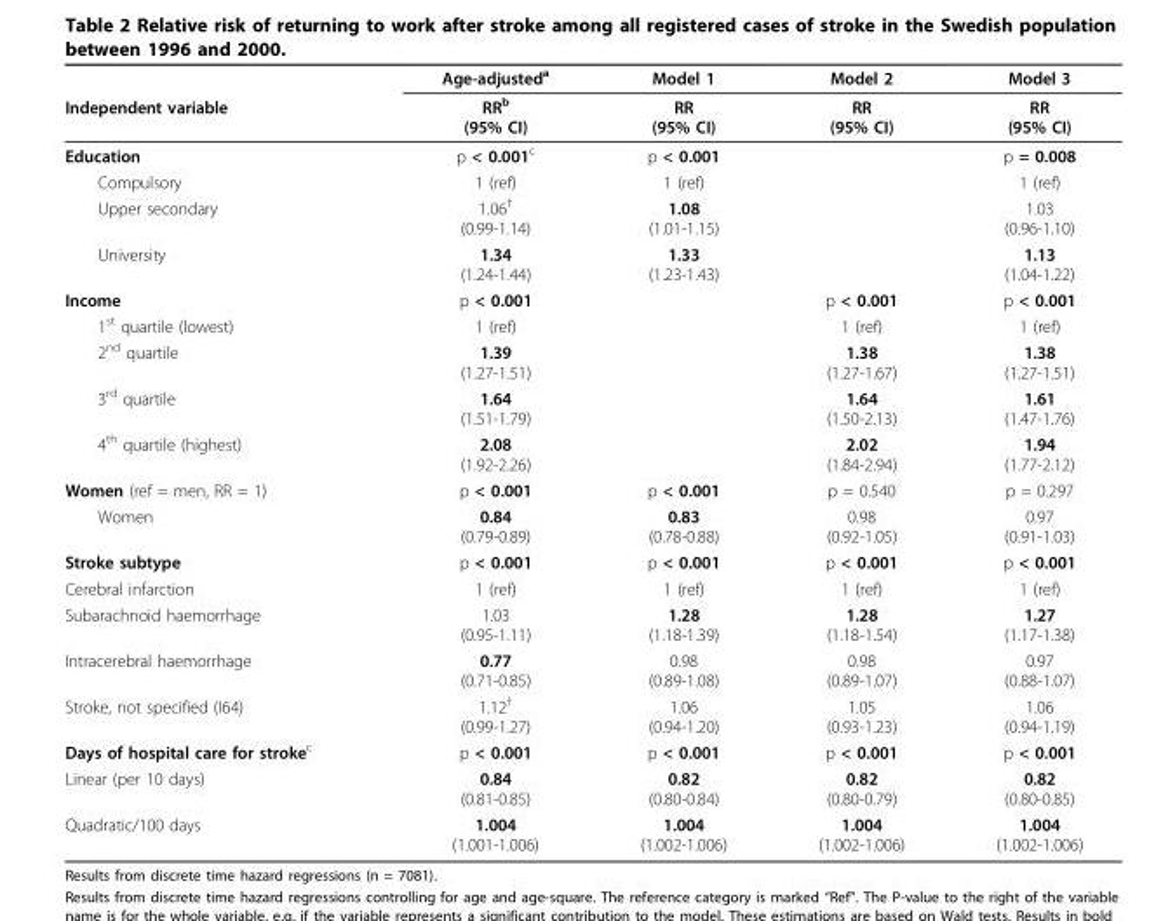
<table><thead><tr><td rowspan="2">Independent variable</td><td rowspan="2">Age-adjusted<sup>a</sup> RR<sup>b</sup> (95% CI)</td><td rowspan="2">Model 1 RR (95% CI)</td><td rowspan="2">Model 2 RR (95% CI)</td><td rowspan="2">Model 3 RR (95% CI)</td></tr><tr></tr></thead><tbody><tr><td>Education</td><td>p &lt; 0.001<sup>c</sup></td><td>p &lt; 0.001</td><td></td><td>p = 0.008</td></tr><tr><td>Compulsory</td><td>1 (ref)</td><td>1 (ref)</td><td></td><td>1 (ref)</td></tr><tr><td>Upper secondary</td><td>1.06<sup>†</sup> (0.99-1.14)</td><td>1.08 (1.01-1.15)</td><td></td><td>1.03 (0.96-1.10)</td></tr><tr><td>University</td><td>1.34 (1.24-1.44)</td><td>1.33 (1.23-1.43)</td><td></td><td>1.13 (1.04-1.22)</td></tr><tr><td>Income</td><td>p &lt; 0.001</td><td></td><td>p &lt; 0.001</td><td>p &lt; 0.001</td></tr><tr><td>1<sup>st</sup> quartile (lowest)</td><td>1 (ref)</td><td></td><td>1 (ref)</td><td>1 (ref)</td></tr><tr><td>2<sup>nd</sup> quartile</td><td>1.39 (1.27-1.51)</td><td></td><td>1.38 (1.27-1.67)</td><td>1.38 (1.27-1.51)</td></tr><tr><td>3<sup>rd</sup> quartile</td><td>1.64 (1.51-1.79)</td><td></td><td>1.64 (1.50-2.13)</td><td>1.61 (1.47-1.76)</td></tr><tr><td>4<sup>th</sup> quartile (highest)</td><td>2.08 (1.92-2.26)</td><td></td><td>2.02 (1.84-2.94)</td><td>1.94 (1.77-2.12)</td></tr><tr><td>Women (ref = men, RR = 1)</td><td>p &lt; 0.001</td><td>p &lt; 0.001</td><td>p = 0.540</td><td>p = 0.297</td></tr><tr><td>Women</td><td>0.84 (0.79-0.89)</td><td>0.83 (0.78-0.88)</td><td>0.98 (0.92-1.05)</td><td>0.97 (0.91-1.03)</td></tr><tr><td>Stroke subtype</td><td>p &lt; 0.001</td><td>p &lt; 0.001</td><td>p &lt; 0.001</td><td>p &lt; 0.001</td></tr><tr><td>Cerebral infarction</td><td>1 (ref)</td><td>1 (ref)</td><td>1 (ref)</td><td>1 (ref)</td></tr><tr><td>Subarachnoid haemorrhage</td><td>1.03 (0.95-1.11)</td><td>1.28 (1.18-1.39)</td><td>1.28 (1.18-1.54)</td><td>1.27 (1.17-1.38)</td></tr><tr><td>Intracerebral haemorrhage</td><td>0.77 (0.71-0.85)</td><td>0.98 (0.89-1.08)</td><td>0.98 (0.89-1.07)</td><td>0.97 (0.88-1.07)</td></tr><tr><td>Stroke, not specified (I64)</td><td>1.12<sup>†</sup> (0.99-1.27)</td><td>1.06 (0.94-1.20)</td><td>1.05 (0.93-1.23)</td><td>1.06 (0.94-1.19)</td></tr><tr><td>Days of hospital care for stroke<sup>c</sup></td><td>p &lt; 0.001</td><td>p &lt; 0.001</td><td>p &lt; 0.001</td><td>p &lt; 0.001</td></tr><tr><td>Linear (per 10 days)</td><td>0.84 (0.81-0.85)</td><td>0.82 (0.80-0.84)</td><td>0.82 (0.80-0.79)</td><td>0.82 (0.80-0.85)</td></tr><tr><td>Quadratic/100 days</td><td>1.004 (1.001-1.006)</td><td>1.004 (1.002-1.006)</td><td>1.004 (1.002-1.006)</td><td>1.004 (1.002-1.006)</td></tr></tbody></table>